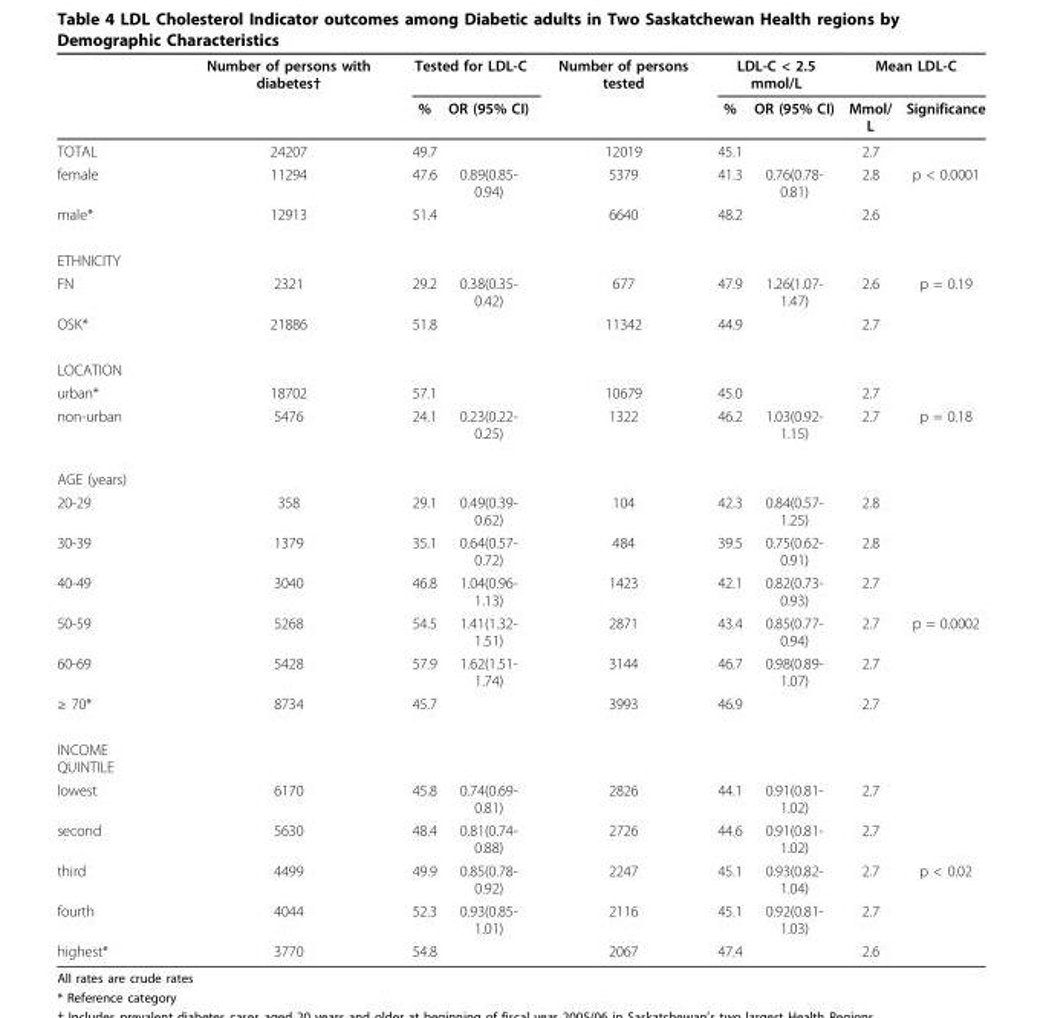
<table><thead><tr><td rowspan="2"></td><td rowspan="2">Number of persons with diabetes†</td><td colspan="2">Tested for LDL-C</td><td rowspan="2">Number of persons tested</td><td colspan="2">LDL-C &lt; 2.5 mmol/L</td><td colspan="2">Mean LDL-C</td></tr><tr><td>%</td><td>OR (95% CI)</td><td>%</td><td>OR (95% CI)</td><td>Mmol/ L</td><td>Significance</td></tr></thead><tbody><tr><td>TOTAL</td><td>24207</td><td>49.7</td><td></td><td>12019</td><td>45.1</td><td></td><td>2.7</td><td></td></tr><tr><td>female</td><td>11294</td><td>47.6</td><td>0.89(0.85- 0.94)</td><td>5379</td><td>41.3</td><td>0.76(0.78- 0.81)</td><td>2.8</td><td>p &lt; 0.0001</td></tr><tr><td>male*</td><td>12913</td><td>51.4</td><td></td><td>6640</td><td>48.2</td><td></td><td>2.6</td><td></td></tr><tr><td colspan="9">ETHNICITY</td></tr><tr><td>FN</td><td>2321</td><td>29.2</td><td>0.38(0.35- 0.42)</td><td>677</td><td>47.9</td><td>1.26(1.07- 1.47)</td><td>2.6</td><td>p = 0.19</td></tr><tr><td>OSK*</td><td>21886</td><td>51.8</td><td></td><td>11342</td><td>44.9</td><td></td><td>2.7</td><td></td></tr><tr><td colspan="9">LOCATION</td></tr><tr><td>urban*</td><td>18702</td><td>57.1</td><td></td><td>10679</td><td>45.0</td><td></td><td>2.7</td><td></td></tr><tr><td>non-urban</td><td>5476</td><td>24.1</td><td>0.23(0.22- 0.25)</td><td>1322</td><td>46.2</td><td>1.03(0.92- 1.15)</td><td>2.7</td><td>p = 0.18</td></tr><tr><td colspan="9">AGE (years)</td></tr><tr><td>20-29</td><td>358</td><td>29.1</td><td>0.49(0.39- 0.62)</td><td>104</td><td>42.3</td><td>0.84(0.57- 1.25)</td><td>2.8</td><td></td></tr><tr><td>30-39</td><td>1379</td><td>35.1</td><td>0.64(0.57- 0.72)</td><td>484</td><td>39.5</td><td>0.75(0.62- 0.91)</td><td>2.8</td><td></td></tr><tr><td>40-49</td><td>3040</td><td>46.8</td><td>1.04(0.96- 1.13)</td><td>1423</td><td>42.1</td><td>0.82(0.73- 0.93)</td><td>2.7</td><td></td></tr><tr><td>50-59</td><td>5268</td><td>54.5</td><td>1.41(1.32- 1.51)</td><td>2871</td><td>43.4</td><td>0.85(0.77- 0.94)</td><td>2.7</td><td>p = 0.0002</td></tr><tr><td>60-69</td><td>5428</td><td>57.9</td><td>1.62(1.51- 1.74)</td><td>3144</td><td>46.7</td><td>0.98(0.89- 1.07)</td><td>2.7</td><td></td></tr><tr><td>≥ 70*</td><td>8734</td><td>45.7</td><td></td><td>3993</td><td>46.9</td><td></td><td>2.7</td><td></td></tr><tr><td colspan="9">INCOME QUINTILE</td></tr><tr><td>lowest</td><td>6170</td><td>45.8</td><td>0.74(0.69- 0.81)</td><td>2826</td><td>44.1</td><td>0.91(0.81- 1.02)</td><td>2.7</td><td></td></tr><tr><td>second</td><td>5630</td><td>48.4</td><td>0.81(0.74- 0.88)</td><td>2726</td><td>44.6</td><td>0.91(0.81- 1.02)</td><td>2.7</td><td></td></tr><tr><td>third</td><td>4499</td><td>49.9</td><td>0.85(0.78- 0.92)</td><td>2247</td><td>45.1</td><td>0.93(0.82- 1.04)</td><td>2.7</td><td>p &lt; 0.02</td></tr><tr><td>fourth</td><td>4044</td><td>52.3</td><td>0.93(0.85- 1.01)</td><td>2116</td><td>45.1</td><td>0.92(0.81- 1.03)</td><td>2.7</td><td></td></tr><tr><td>highest*</td><td>3770</td><td>54.8</td><td></td><td>2067</td><td>47.4</td><td></td><td>2.6</td><td></td></tr></tbody></table>